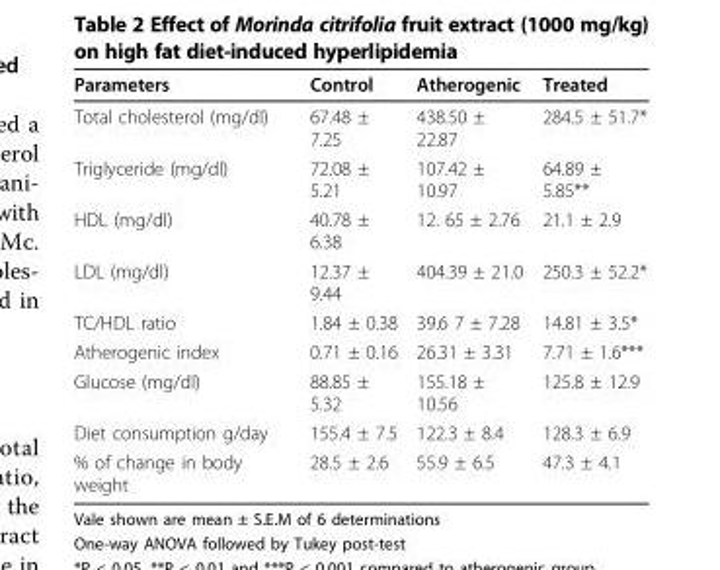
<table><thead><tr><td>Parameters</td><td>Control</td><td>Atherogenic</td><td>Treated</td></tr></thead><tbody><tr><td>Total cholesterol (mg/dl)</td><td>67.48 ± 7.25</td><td>438.50 ± 22.87</td><td>284.5 ± 51.7*</td></tr><tr><td>Triglyceride (mg/dl)</td><td>72.08 ± 5.21</td><td>107.42 ± 10.97</td><td>64.89 ± 5.85**</td></tr><tr><td>HDL (mg/dl)</td><td>40.78 ± 6.38</td><td>12. 65 ± 2.76</td><td>21.1 ± 2.9</td></tr><tr><td>LDL (mg/dl)</td><td>12.37 ± 9.44</td><td>404.39 ± 21.0</td><td>250.3 ± 52.2*</td></tr><tr><td>TC/HDL ratio</td><td>1.84 ± 0.38</td><td>39.6 7 ± 7.28</td><td>14.81 ± 3.5*</td></tr><tr><td>Atherogenic index</td><td>0.71 ± 0.16</td><td>26.31 ± 3.31</td><td>7.71 ± 1.6***</td></tr><tr><td>Glucose (mg/dl)</td><td>88.85 ± 5.32</td><td>155.18 ± 10.56</td><td>125.8 ± 12.9</td></tr><tr><td>Diet consumption g/day</td><td>155.4 ± 7.5</td><td>122.3 ± 8.4</td><td>128.3 ± 6.9</td></tr><tr><td>% of change in body weight</td><td>28.5 ± 2.6</td><td>55.9 ± 6.5</td><td>47.3 ± 4.1</td></tr></tbody></table>